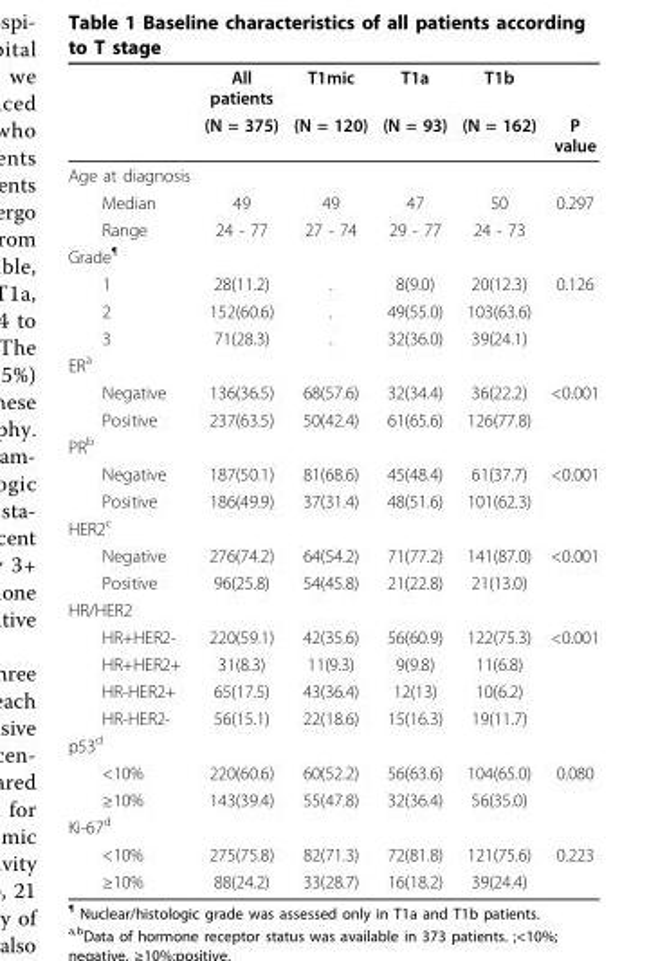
<table><thead><tr><td rowspan="2"></td><td rowspan="2">All patients (N = 375)</td><td rowspan="2">T1mic (N = 120)</td><td rowspan="2">T1a (N = 93)</td><td rowspan="2">T1b (N = 162)</td><td rowspan="2">P value</td></tr><tr></tr></thead><tbody><tr><td colspan="6">Age at diagnosis</td></tr><tr><td>Median</td><td>49</td><td>49</td><td>47</td><td>50</td><td>0.297</td></tr><tr><td>Range</td><td>24 - 77</td><td>27 - 74</td><td>29 - 77</td><td>24 - 73</td><td></td></tr><tr><td colspan="6">Grade<sup>¶</sup></td></tr><tr><td>1</td><td>28(11.2)</td><td>.</td><td>8(9.0)</td><td>20(12.3)</td><td>0.126</td></tr><tr><td>2</td><td>152(60.6)</td><td>.</td><td>49(55.0)</td><td>103(63.6)</td><td></td></tr><tr><td>3</td><td>71(28.3)</td><td>.</td><td>32(36.0)</td><td>39(24.1)</td><td></td></tr><tr><td colspan="6">ER<sup>a</sup></td></tr><tr><td>Negative</td><td>136(36.5)</td><td>68(57.6)</td><td>32(34.4)</td><td>36(22.2)</td><td>&lt;0.001</td></tr><tr><td>Positive</td><td>237(63.5)</td><td>50(42.4)</td><td>61(65.6)</td><td>126(77.8)</td><td></td></tr><tr><td colspan="6">PR<sup>b</sup></td></tr><tr><td>Negative</td><td>187(50.1)</td><td>81(68.6)</td><td>45(48.4)</td><td>61(37.7)</td><td>&lt;0.001</td></tr><tr><td>Positive</td><td>186(49.9)</td><td>37(31.4)</td><td>48(51.6)</td><td>101(62.3)</td><td></td></tr><tr><td colspan="6">HER2<sup>c</sup></td></tr><tr><td>Negative</td><td>276(74.2)</td><td>64(54.2)</td><td>71(77.2)</td><td>141(87.0)</td><td>&lt;0.001</td></tr><tr><td>Positive</td><td>96(25.8)</td><td>54(45.8)</td><td>21(22.8)</td><td>21(13.0)</td><td></td></tr><tr><td colspan="6">HR/HER2</td></tr><tr><td>HR+HER2-</td><td>220(59.1)</td><td>42(35.6)</td><td>56(60.9)</td><td>122(75.3)</td><td>&lt;0.001</td></tr><tr><td>HR+HER2+</td><td>31(8.3)</td><td>11(9.3)</td><td>9(9.8)</td><td>11(6.8)</td><td></td></tr><tr><td>HR-HER2+</td><td>65(17.5)</td><td>43(36.4)</td><td>12(13)</td><td>10(6.2)</td><td></td></tr><tr><td>HR-HER2-</td><td>56(15.1)</td><td>22(18.6)</td><td>15(16.3)</td><td>19(11.7)</td><td></td></tr><tr><td colspan="6">p53<sup>d</sup></td></tr><tr><td>&lt;10%</td><td>220(60.6)</td><td>60(52.2)</td><td>56(63.6)</td><td>104(65.0)</td><td>0.080</td></tr><tr><td>≥10%</td><td>143(39.4)</td><td>55(47.8)</td><td>32(36.4)</td><td>56(35.0)</td><td></td></tr><tr><td colspan="6">Ki-67<sup>d</sup></td></tr><tr><td>&lt;10%</td><td>275(75.8)</td><td>82(71.3)</td><td>72(81.8)</td><td>121(75.6)</td><td>0.223</td></tr><tr><td>≥10%</td><td>88(24.2)</td><td>33(28.7)</td><td>16(18.2)</td><td>39(24.4)</td><td></td></tr></tbody></table>